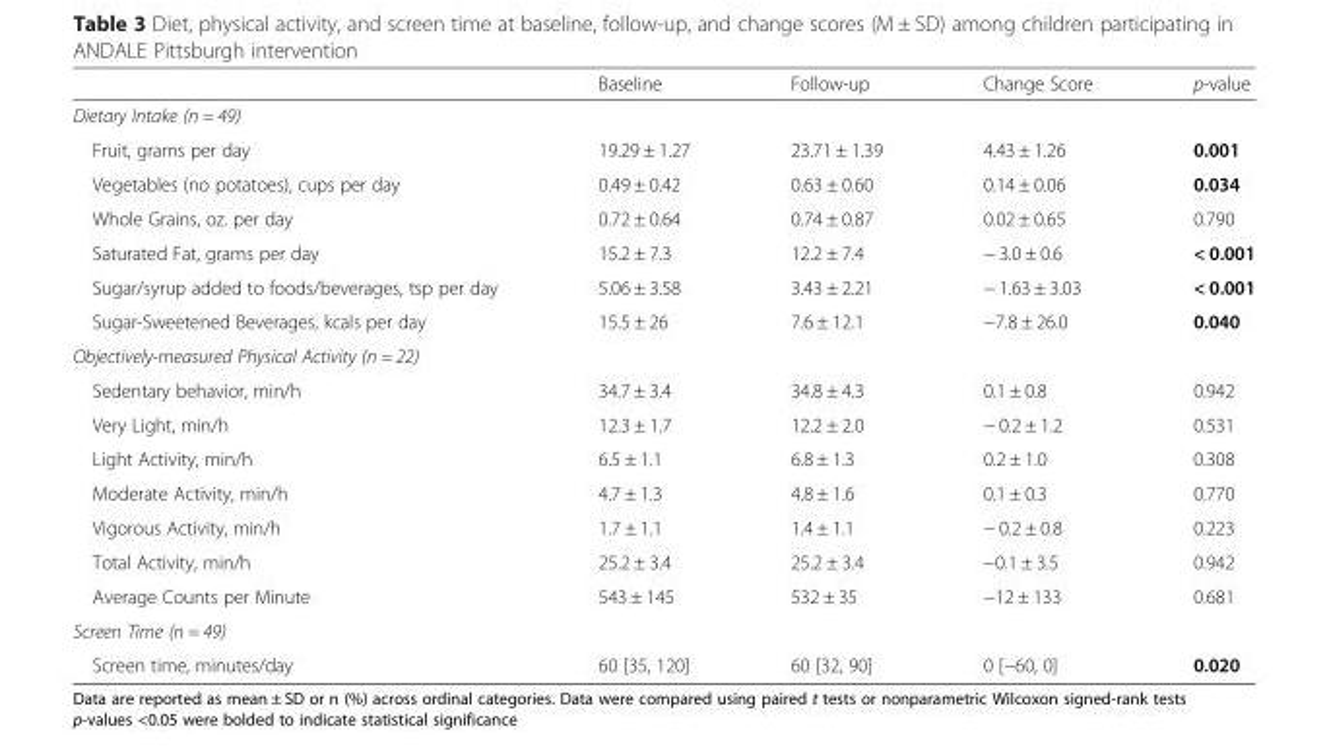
<table><thead><tr><td></td><td>Baseline</td><td>Follow-up</td><td>Change Score</td><td>p-value</td></tr></thead><tbody><tr><td colspan="5">Dietary Intake (n = 49)</td></tr><tr><td>Fruit, grams per day</td><td>19.29 ± 1.27</td><td>23.71 ± 1.39</td><td>4.43 ± 1.26</td><td>0.001</td></tr><tr><td>Vegetables (no potatoes), cups per day</td><td>0.49 ± 0.42</td><td>0.63 ± 0.60</td><td>0.14 ± 0.06</td><td>0.034</td></tr><tr><td>Whole Grains, oz. per day</td><td>0.72 ± 0.64</td><td>0.74 ± 0.87</td><td>0.02 ± 0.65</td><td>0.790</td></tr><tr><td>Saturated Fat, grams per day</td><td>15.2 ± 7.3</td><td>12.2 ± 7.4</td><td>− 3.0 ± 0.6</td><td>&lt; 0.001</td></tr><tr><td>Sugar/syrup added to foods/beverages, tsp per day</td><td>5.06 ± 3.58</td><td>3.43 ± 2.21</td><td>− 1.63 ± 3.03</td><td>&lt; 0.001</td></tr><tr><td>Sugar-Sweetened Beverages, kcals per day</td><td>15.5 ± 26</td><td>7.6 ± 12.1</td><td>−7.8 ± 26.0</td><td>0.040</td></tr><tr><td colspan="5">Objectively-measured Physical Activity (n = 22)</td></tr><tr><td>Sedentary behavior, min/h</td><td>34.7 ± 3.4</td><td>34.8 ± 4.3</td><td>0.1 ± 0.8</td><td>0.942</td></tr><tr><td>Very Light, min/h</td><td>12.3 ± 1.7</td><td>12.2 ± 2.0</td><td>− 0.2 ± 1.2</td><td>0.531</td></tr><tr><td>Light Activity, min/h</td><td>6.5 ± 1.1</td><td>6.8 ± 1.3</td><td>0.2 ± 1.0</td><td>0.308</td></tr><tr><td>Moderate Activity, min/h</td><td>4.7 ± 1.3</td><td>4.8 ± 1.6</td><td>0.1 ± 0.3</td><td>0.770</td></tr><tr><td>Vigorous Activity, min/h</td><td>1.7 ± 1.1</td><td>1.4 ± 1.1</td><td>− 0.2 ± 0.8</td><td>0.223</td></tr><tr><td>Total Activity, min/h</td><td>25.2 ± 3.4</td><td>25.2 ± 3.4</td><td>−0.1 ± 3.5</td><td>0.942</td></tr><tr><td>Average Counts per Minute</td><td>543 ± 145</td><td>532 ± 35</td><td>−12 ± 133</td><td>0.681</td></tr><tr><td colspan="5">Screen Time (n = 49)</td></tr><tr><td>Screen time, minutes/day</td><td>60 [35, 120]</td><td>60 [32, 90]</td><td>0 [−60, 0]</td><td>0.020</td></tr></tbody></table>